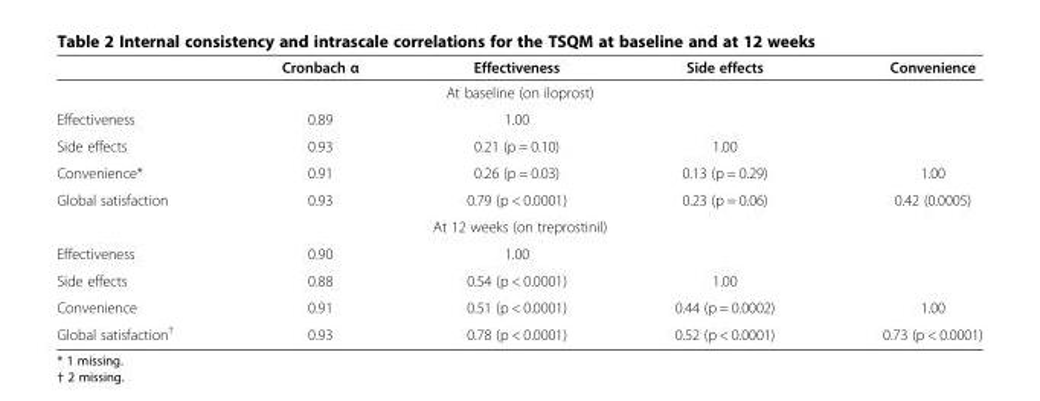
<table><thead><tr><td></td><td>Cronbach α</td><td>Effectiveness</td><td>Side effects</td><td>Convenience</td></tr></thead><tbody><tr><td colspan="5">At baseline (on iloprost)</td></tr><tr><td>Effectiveness</td><td>0.89</td><td>1.00</td><td></td><td></td></tr><tr><td>Side effects</td><td>0.93</td><td>0.21 (p = 0.10)</td><td>1.00</td><td></td></tr><tr><td>Convenience*</td><td>0.91</td><td>0.26 (p = 0.03)</td><td>0.13 (p = 0.29)</td><td>1.00</td></tr><tr><td>Global satisfaction</td><td>0.93</td><td>0.79 (p &lt; 0.0001)</td><td>0.23 (p = 0.06)</td><td>0.42 (0.0005)</td></tr><tr><td colspan="5">At 12 weeks (on treprostinil)</td></tr><tr><td>Effectiveness</td><td>0.90</td><td>1.00</td><td></td><td></td></tr><tr><td>Side effects</td><td>0.88</td><td>0.54 (p &lt; 0.0001)</td><td>1.00</td><td></td></tr><tr><td>Convenience</td><td>0.91</td><td>0.51 (p &lt; 0.0001)</td><td>0.44 (p = 0.0002)</td><td>1.00</td></tr><tr><td>Global satisfaction<sup>†</sup></td><td>0.93</td><td>0.78 (p &lt; 0.0001)</td><td>0.52 (p &lt; 0.0001)</td><td>0.73 (p &lt; 0.0001)</td></tr></tbody></table>